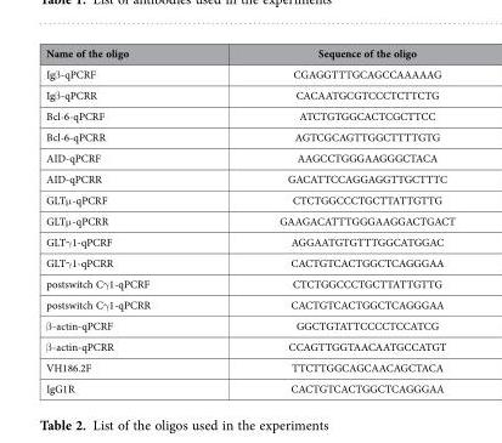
<table><thead><tr><td>Name of the oligo</td><td>Sequence of the oligo</td></tr></thead><tbody><tr><td>Igβ -qPCRF</td><td>CGAGGTTTGCAGCCAAAAAG</td></tr><tr><td>Igβ -qPCRR</td><td>CACAATGCGTCCCTCTTCTG</td></tr><tr><td>Bcl-6-qPCRF</td><td>ATCTGTGGCACTCGCTTCC</td></tr><tr><td>Bcl-6-qPCRR</td><td>AGTCGCAGTTGGCTTTTGTG</td></tr><tr><td>AID-qPCRF</td><td>AAGCCTGGGAAGGGCTACA</td></tr><tr><td>AID-qPCRR</td><td>GACATTCCAGGAGGTTGCTTTC</td></tr><tr><td>GLTμ -qPCRF</td><td>CTCTGGCCCTGCTTATTGTTG</td></tr><tr><td>GLTμ -qPCRR</td><td>GAAGACATTTGGGAAGGACTGACT</td></tr><tr><td>GLTγ 1-qPCRF</td><td>AGGAATGTGTTTGGCATGGAC</td></tr><tr><td>GLTγ 1-qPCRR</td><td>CACTGTCACTGGCTCAGGGAA</td></tr><tr><td>postswitch Cγ 1-qPCRF</td><td>CTCTGGCCCTGCTTATTGTTG</td></tr><tr><td>postswitch Cγ 1-qPCRR</td><td>CACTGTCACTGGCTCAGGGAA</td></tr><tr><td>β -actin-qPCRF</td><td>GGCTGTATTCCCCTCCATCG</td></tr><tr><td>β -actin-qPCRR</td><td>CCAGTTGGTAACAATGCCATGT</td></tr><tr><td>VH186.2F</td><td>TTCTTGGCAGCAACAGCTACA</td></tr><tr><td>IgG1R</td><td>CACTGTCACTGGCTCAGGGAA</td></tr></tbody></table>